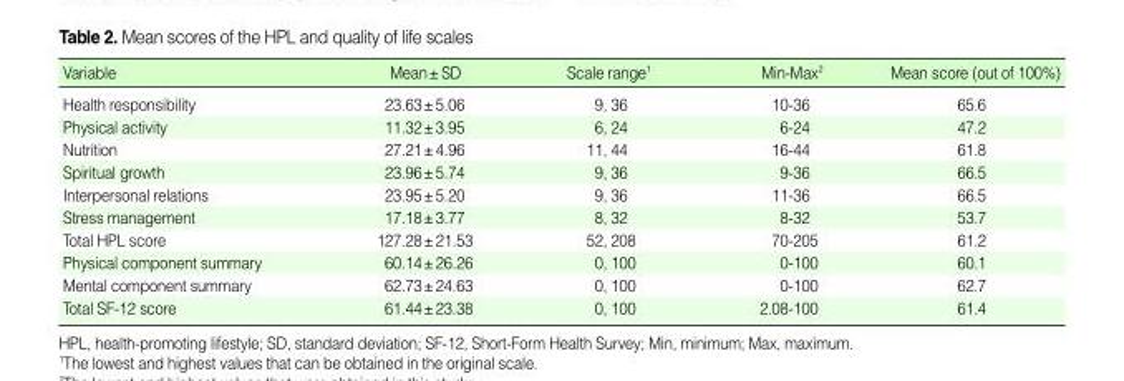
<table><thead><tr><td>Variable</td><td>Mean±SD</td><td>Scale range<sup>1</sup></td><td>Min-Max<sup>2</sup></td><td>Mean score (out of 100%)</td></tr></thead><tbody><tr><td>Health responsibility</td><td>23.63±5.06</td><td>9, 36</td><td>10-36</td><td>65.6</td></tr><tr><td>Physical activity</td><td>11.32±3.95</td><td>6, 24</td><td>6-24</td><td>47.2</td></tr><tr><td>Nutrition</td><td>27.21±4.96</td><td>11, 44</td><td>16-44</td><td>61.8</td></tr><tr><td>Spiritual growth</td><td>23.96±5.74</td><td>9, 36</td><td>9-36</td><td>66.5</td></tr><tr><td>Interpersonal relations</td><td>23.95±5.20</td><td>9, 36</td><td>11-36</td><td>66.5</td></tr><tr><td>Stress management</td><td>17.18±3.77</td><td>8, 32</td><td>8-32</td><td>53.7</td></tr><tr><td>Total HPL score</td><td>127.28±21.53</td><td>52, 208</td><td>70-205</td><td>61.2</td></tr><tr><td>Physical component summary</td><td>60.14±26.26</td><td>0, 100</td><td>0-100</td><td>60.1</td></tr><tr><td>Mental component summary</td><td>62.73±24.63</td><td>0, 100</td><td>0-100</td><td>62.7</td></tr><tr><td>Total SF-12 score</td><td>61.44±23.38</td><td>0, 100</td><td>2.08-100</td><td>61.4</td></tr></tbody></table>